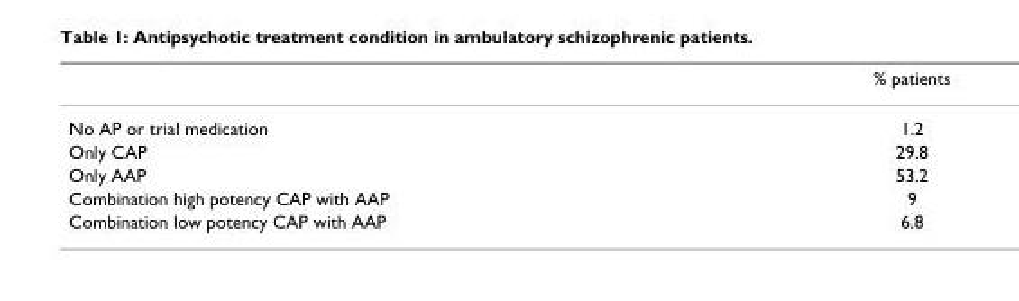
<table><thead><tr><td></td><td>% patients</td></tr></thead><tbody><tr><td>No AP or trial medication</td><td>1.2</td></tr><tr><td>Only CAP</td><td>29.8</td></tr><tr><td>Only AAP</td><td>53.2</td></tr><tr><td>Combination high potency CAP with AAP</td><td>9</td></tr><tr><td>Combination low potency CAP with AAP</td><td>6.8</td></tr></tbody></table>